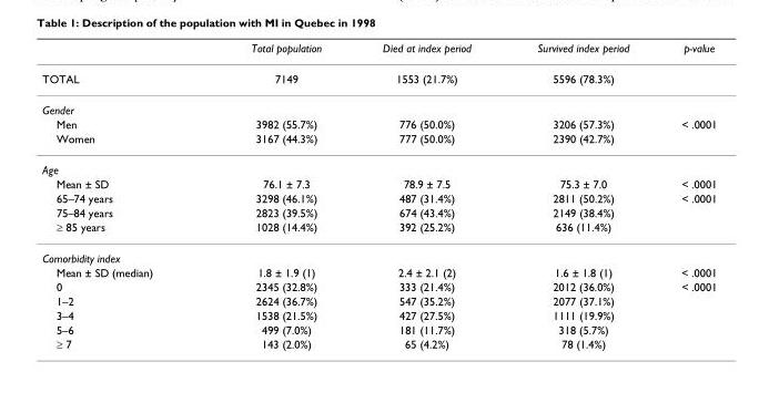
<table><thead><tr><td></td><td>Total population</td><td>Died at index period</td><td>Survived index period</td><td>p-value</td></tr></thead><tbody><tr><td>TOTAL</td><td>7149</td><td>1553 (21.7%)</td><td>5596 (78.3%)</td><td></td></tr><tr><td colspan="5">Gender</td></tr><tr><td>Men</td><td>3982 (55.7%)</td><td>776 (50.0%)</td><td>3206 (57.3%)</td><td>&lt; .0001</td></tr><tr><td>Women</td><td>3167 (44.3%)</td><td>777 (50.0%)</td><td>2390 (42.7%)</td><td></td></tr><tr><td colspan="5">Age</td></tr><tr><td>Mean ± SD</td><td>76.1 ± 7.3</td><td>78.9 ± 7.5</td><td>75.3 ± 7.0</td><td>&lt; .0001</td></tr><tr><td>65–74 years</td><td>3298 (46.1%)</td><td>487 (31.4%)</td><td>2811 (50.2%)</td><td>&lt; .0001</td></tr><tr><td>75–84 years</td><td>2823 (39.5%)</td><td>674 (43.4%)</td><td>2149 (38.4%)</td><td></td></tr><tr><td>≥ 85 years</td><td>1028 (14.4%)</td><td>392 (25.2%)</td><td>636 (11.4%)</td><td></td></tr><tr><td colspan="5">Comorbidity index</td></tr><tr><td>Mean ± SD (median)</td><td>1.8 ± 1.9 (1)</td><td>2.4 ± 2.1 (2)</td><td>1.6 ± 1.8 (1)</td><td>&lt; .0001</td></tr><tr><td>0</td><td>2345 (32.8%)</td><td>333 (21.4%)</td><td>2012 (36.0%)</td><td>&lt; .0001</td></tr><tr><td>1–2</td><td>2624 (36.7%)</td><td>547 (35.2%)</td><td>2077 (37.1%)</td><td></td></tr><tr><td>3–4</td><td>1538 (21.5%)</td><td>427 (27.5%)</td><td>1111 (19.9%)</td><td></td></tr><tr><td>5–6</td><td>499 (7.0%)</td><td>181 (11.7%)</td><td>318 (5.7%)</td><td></td></tr><tr><td>≥ 7</td><td>143 (2.0%)</td><td>65 (4.2%)</td><td>78 (1.4%)</td><td></td></tr></tbody></table>